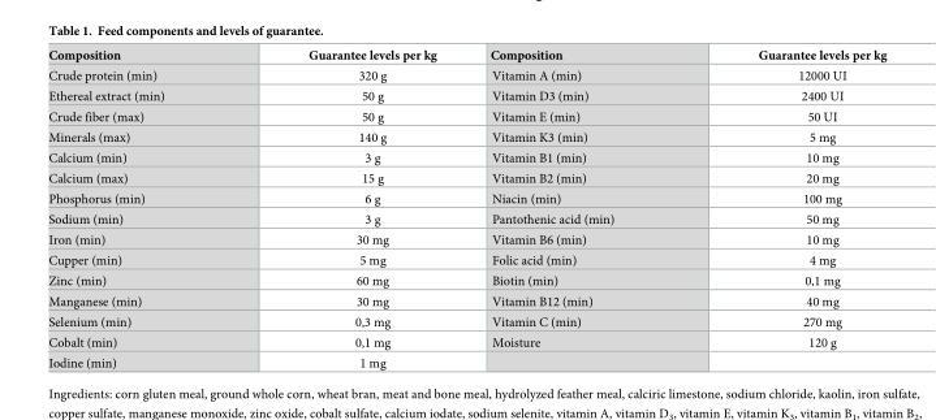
<table><thead><tr><td>Composition</td><td>Guarantee levels per kg</td><td>Composition</td><td>Guarantee levels per kg</td></tr></thead><tbody><tr><td>Crude protein (min)</td><td>320 g</td><td>Vitamin A (min)</td><td>12000 UI</td></tr><tr><td>Ethereal extract (min)</td><td>50 g</td><td>Vitamin D3 (min)</td><td>2400 UI</td></tr><tr><td>Crude fiber (max)</td><td>50 g</td><td>Vitamin E (min)</td><td>50 UI</td></tr><tr><td>Minerals (max)</td><td>140 g</td><td>Vitamin K3 (min)</td><td>5 mg</td></tr><tr><td>Calcium (min)</td><td>3 g</td><td>Vitamin B1 (min)</td><td>10 mg</td></tr><tr><td>Calcium (max)</td><td>15 g</td><td>Vitamin B2 (min)</td><td>20 mg</td></tr><tr><td>Phosphorus (min)</td><td>6 g</td><td>Niacin (min)</td><td>100 mg</td></tr><tr><td>Sodium (min)</td><td>3 g</td><td>Pantothenic acid (min)</td><td>50 mg</td></tr><tr><td>Iron (min)</td><td>30 mg</td><td>Vitamin B6 (min)</td><td>10 mg</td></tr><tr><td>Cupper (min)</td><td>5 mg</td><td>Folic acid (min)</td><td>4 mg</td></tr><tr><td>Zinc (min)</td><td>60 mg</td><td>Biotin (min)</td><td>0,1 mg</td></tr><tr><td>Manganese (min)</td><td>30 mg</td><td>Vitamin B12 (min)</td><td>40 mg</td></tr><tr><td>Selenium (min)</td><td>0,3 mg</td><td>Vitamin C (min)</td><td>270 mg</td></tr><tr><td>Cobalt (min)</td><td>0,1 mg</td><td>Moisture</td><td>120 g</td></tr><tr><td>Iodine (min)</td><td>1 mg</td><td></td><td></td></tr></tbody></table>